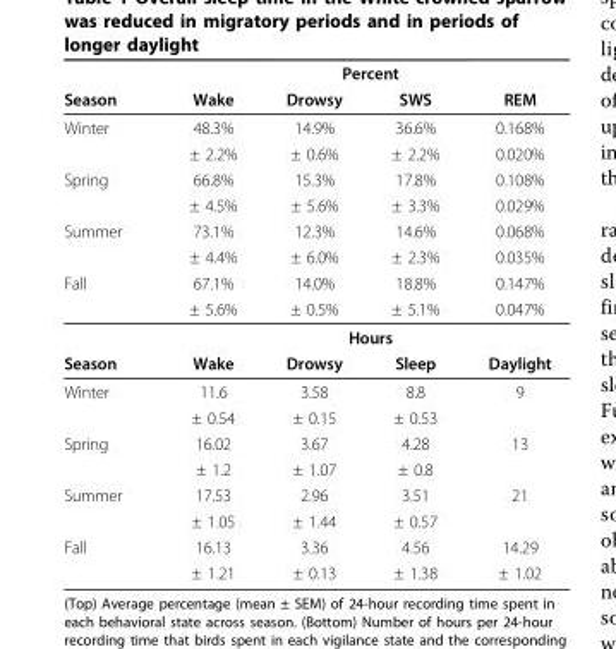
<table><thead><tr><td rowspan="2">Season</td><td colspan="4">Percent</td></tr><tr><td>Wake</td><td>Drowsy</td><td>SWS</td><td>REM</td></tr></thead><tbody><tr><td rowspan="2">Winter</td><td>48.3%</td><td>14.9%</td><td>36.6%</td><td>0.168%</td></tr><tr><td>± 2.2%</td><td>± 0.6%</td><td>± 2.2%</td><td>0.020%</td></tr><tr><td rowspan="2">Spring</td><td>66.8%</td><td>15.3%</td><td>17.8%</td><td>0.108%</td></tr><tr><td>± 4.5%</td><td>± 5.6%</td><td>± 3.3%</td><td>0.029%</td></tr><tr><td rowspan="2">Summer</td><td>73.1%</td><td>12.3%</td><td>14.6%</td><td>0.068%</td></tr><tr><td>± 4.4%</td><td>± 6.0%</td><td>± 2.3%</td><td>0.035%</td></tr><tr><td rowspan="3">Fall</td><td>67.1%</td><td>14.0%</td><td>18.8%</td><td>0.147%</td></tr><tr><td>± 5.6%</td><td>± 0.5%</td><td>± 5.1%</td><td>0.047%</td></tr><tr><td colspan="4">Hours</td></tr><tr><td>Season</td><td>Wake</td><td>Drowsy</td><td>Sleep</td><td>Daylight</td></tr><tr><td rowspan="2">Winter</td><td>11.6</td><td>3.58</td><td>8.8</td><td>9</td></tr><tr><td>± 0.54</td><td>± 0.15</td><td>± 0.53</td><td></td></tr><tr><td rowspan="2">Spring</td><td>16.02</td><td>3.67</td><td>4.28</td><td>13</td></tr><tr><td>± 1.2</td><td>± 1.07</td><td>± 0.8</td><td></td></tr><tr><td rowspan="2">Summer</td><td>17.53</td><td>2.96</td><td>3.51</td><td>21</td></tr><tr><td>± 1.05</td><td>± 1.44</td><td>± 0.57</td><td></td></tr><tr><td rowspan="2">Fall</td><td>16.13</td><td>3.36</td><td>4.56</td><td>14.29</td></tr><tr><td>± 1.21</td><td>± 0.13</td><td>± 1.38</td><td>± 1.02</td></tr></tbody></table>